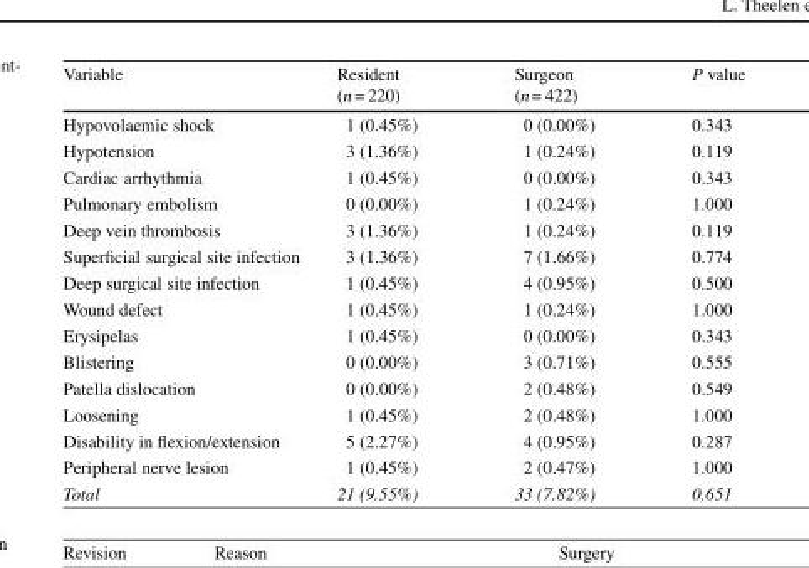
<table><thead><tr><td>Variable</td><td>Resident (n= 220)</td><td>Surgeon (n= 422)</td><td>P value</td></tr></thead><tbody><tr><td>Hypovolaemic shock</td><td>1 (0.45%)</td><td>0 (0.00%)</td><td>0.343</td></tr><tr><td>Hypotension</td><td>3 (1.36%)</td><td>1 (0.24%)</td><td>0.119</td></tr><tr><td>Cardiac arrhythmia</td><td>1 (0.45%)</td><td>0 (0.00%)</td><td>0.343</td></tr><tr><td>Pulmonary embolism</td><td>0 (0.00%)</td><td>1 (0.24%)</td><td>1.000</td></tr><tr><td>Deep vein thrombosis</td><td>3 (1.36%)</td><td>1 (0.24%)</td><td>0.119</td></tr><tr><td>Superficial surgical site infection</td><td>3 (1.36%)</td><td>7 (1.66%)</td><td>0.774</td></tr><tr><td>Deep surgical site infection</td><td>1 (0.45%)</td><td>4 (0.95%)</td><td>0.500</td></tr><tr><td>Wound defect</td><td>1 (0.45%)</td><td>1 (0.24%)</td><td>1.000</td></tr><tr><td>Erysipelas</td><td>1 (0.45%)</td><td>0 (0.00%)</td><td>0.343</td></tr><tr><td>Blistering</td><td>0 (0.00%)</td><td>3 (0.71%)</td><td>0.555</td></tr><tr><td>Patella dislocation</td><td>0 (0.00%)</td><td>2 (0.48%)</td><td>0.549</td></tr><tr><td>Loosening</td><td>1 (0.45%)</td><td>2 (0.48%)</td><td>1.000</td></tr><tr><td>Disability in flexion/extension</td><td>5 (2.27%)</td><td>4 (0.95%)</td><td>0.287</td></tr><tr><td>Peripheral nerve lesion</td><td>1 (0.45%)</td><td>2 (0.47%)</td><td>1.000</td></tr><tr><td>Total</td><td>21 (9.55%)</td><td>33 (7.82%)</td><td>0.651</td></tr></tbody></table>